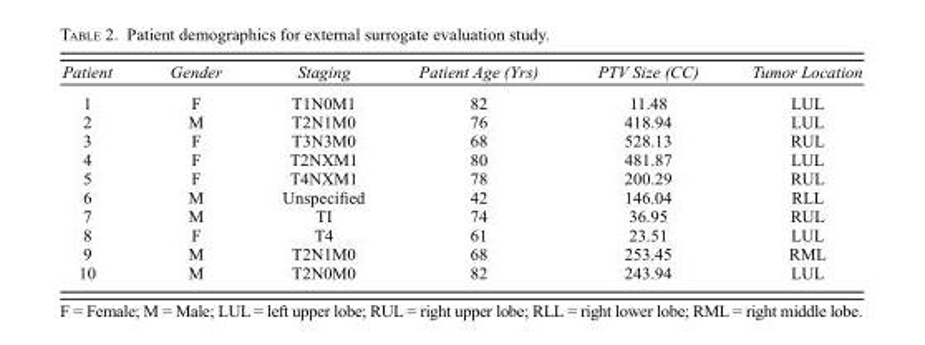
<table><thead><tr><td>Patient</td><td>Gender</td><td>Staging</td><td>Patient Age (Yrs)</td><td>PTV Size (CC)</td><td>Tumor Location</td></tr></thead><tbody><tr><td>1</td><td>F</td><td>T1N0M1</td><td>82</td><td>11.48</td><td>LUL</td></tr><tr><td>2</td><td>M</td><td>T2N1M0</td><td>76</td><td>418.94</td><td>LUL</td></tr><tr><td>3</td><td>F</td><td>T3N3M0</td><td>68</td><td>528.13</td><td>RUL</td></tr><tr><td>4</td><td>F</td><td>T2NXM1</td><td>80</td><td>481.87</td><td>LUL</td></tr><tr><td>5</td><td>F</td><td>T4NXM1</td><td>78</td><td>200.29</td><td>RUL</td></tr><tr><td>6</td><td>M</td><td>Unspecified</td><td>42</td><td>146.04</td><td>RLL</td></tr><tr><td>7</td><td>M</td><td>TI</td><td>74</td><td>36.95</td><td>RUL</td></tr><tr><td>8</td><td>F</td><td>T4</td><td>61</td><td>23.51</td><td>LUL</td></tr><tr><td>9</td><td>M</td><td>T2N1M0</td><td>68</td><td>253.45</td><td>RML</td></tr><tr><td>10</td><td>M</td><td>T2N0M0</td><td>82</td><td>243.94</td><td>LUL</td></tr></tbody></table>